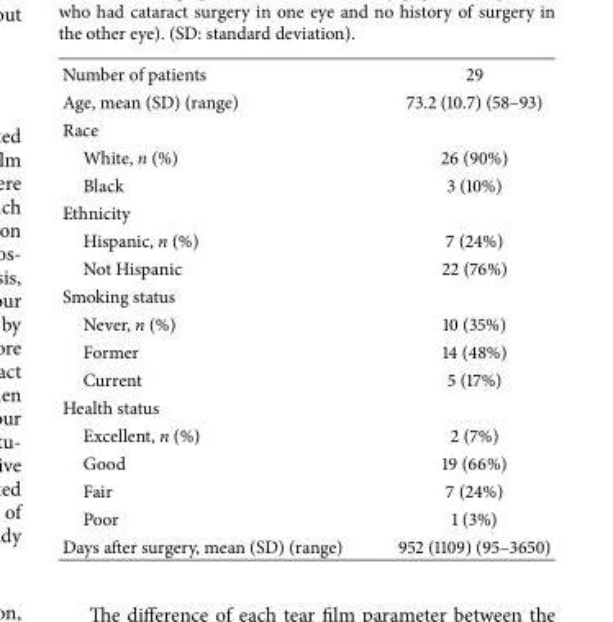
<table><tbody><tr><td>Number of patients</td><td>29</td></tr><tr><td>Age, mean (SD) (range)</td><td>73.2 (10.7) (58–93)</td></tr><tr><td colspan="2">Race</td></tr><tr><td>White, n (%)</td><td>26 (90%)</td></tr><tr><td>Black</td><td>3 (10%)</td></tr><tr><td colspan="2">Ethnicity</td></tr><tr><td>Hispanic, n (%)</td><td>7 (24%)</td></tr><tr><td>Not Hispanic</td><td>22 (76%)</td></tr><tr><td colspan="2">Smoking status</td></tr><tr><td>Never, n (%)</td><td>10 (35%)</td></tr><tr><td>Former</td><td>14 (48%)</td></tr><tr><td>Current</td><td>5 (17%)</td></tr><tr><td colspan="2">Health status</td></tr><tr><td>Excellent, n (%)</td><td>2 (7%)</td></tr><tr><td>Good</td><td>19 (66%)</td></tr><tr><td>Fair</td><td>7 (24%)</td></tr><tr><td>Poor</td><td>1 (3%)</td></tr><tr><td>Days after surgery, mean (SD) (range)</td><td>952 (1109) (95–3650)</td></tr></tbody></table>